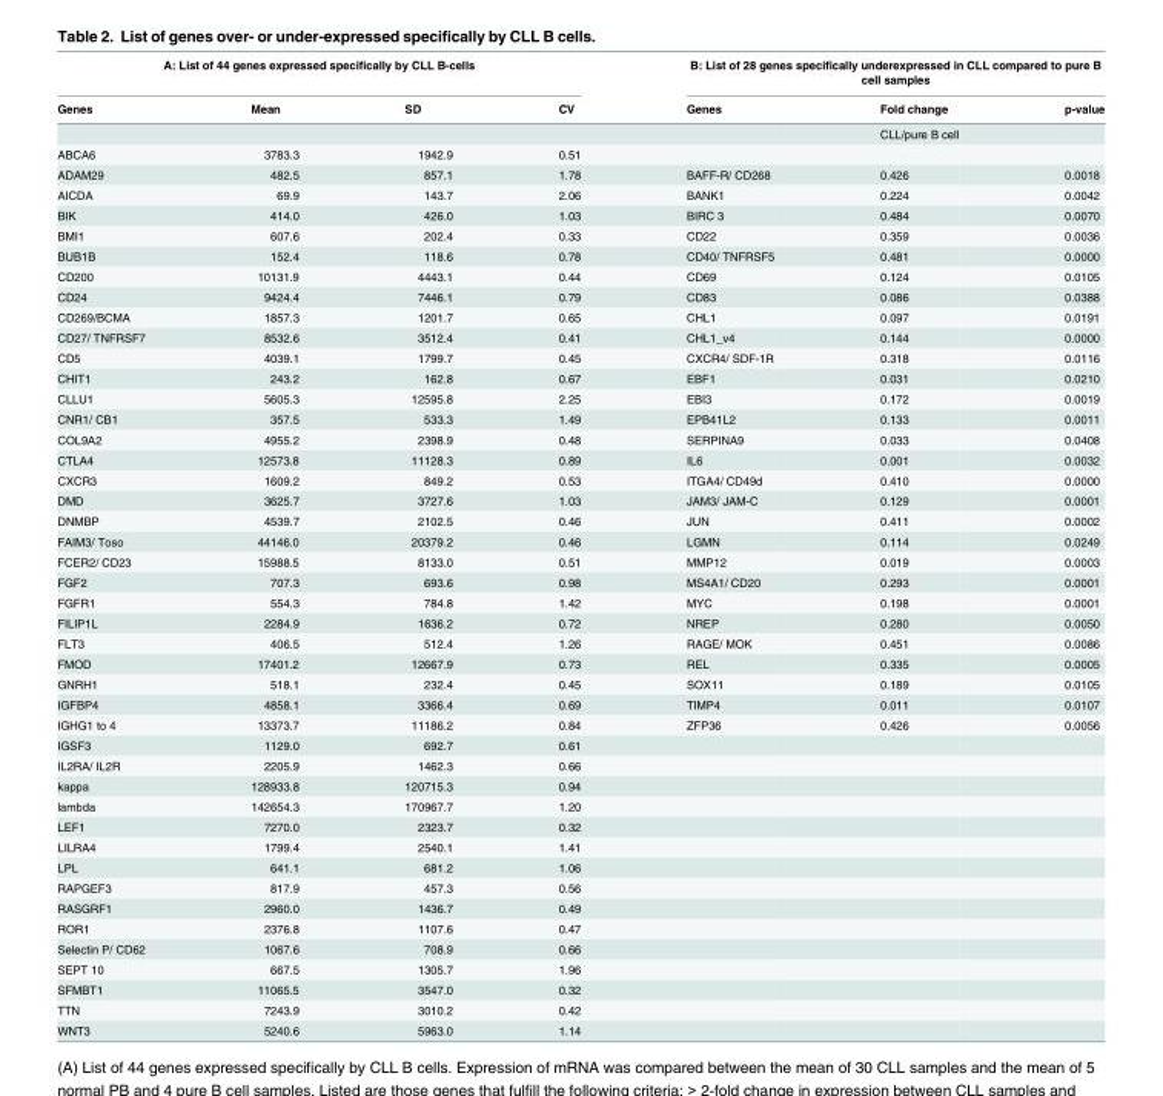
<table><thead><tr><td colspan="4">A: List of 44 genes expressed specifically by CLL B-cells</td><td colspan="3">B: List of 28 genes specifically underexpressed in CLL compared to pure B cell samples</td></tr><tr><td>Genes</td><td>Mean</td><td>SD</td><td>CV</td><td>Genes</td><td>Fold change</td><td>p-value</td></tr></thead><tbody><tr><td></td><td></td><td></td><td></td><td></td><td>CLL/pure B cell</td><td></td></tr><tr><td>ABCA6</td><td>3783.3</td><td>1942.9</td><td>0.51</td><td></td><td></td><td></td></tr><tr><td>ADAM29</td><td>482.5</td><td>857.1</td><td>1.78</td><td>BAFF-R/ CD268</td><td>0.426</td><td>0.0018</td></tr><tr><td>AICDA</td><td>69.9</td><td>143.7</td><td>2.06</td><td>BANK1</td><td>0.224</td><td>0.0042</td></tr><tr><td>BIK</td><td>414.0</td><td>426.0</td><td>1.03</td><td>BIRC 3</td><td>0.484</td><td>0.0070</td></tr><tr><td>BMI1</td><td>607.6</td><td>202.4</td><td>0.33</td><td>CD22</td><td>0.359</td><td>0.0036</td></tr><tr><td>BUB1B</td><td>152.4</td><td>118.6</td><td>0.78</td><td>CD40/ TNFRSF5</td><td>0.481</td><td>0.0000</td></tr><tr><td>CD200</td><td>10131.9</td><td>4443.1</td><td>0.44</td><td>CD69</td><td>0.124</td><td>0.0105</td></tr><tr><td>CD24</td><td>9424.4</td><td>7446.1</td><td>0.79</td><td>CD83</td><td>0.086</td><td>0.0388</td></tr><tr><td>CD269/BCMA</td><td>1857.3</td><td>1201.7</td><td>0.65</td><td>CHL1</td><td>0.097</td><td>0.0191</td></tr><tr><td>CD27/ TNFRSF7</td><td>8532.6</td><td>3512.4</td><td>0.41</td><td>CHL1_v4</td><td>0.144</td><td>0.0000</td></tr><tr><td>CD5</td><td>4039.1</td><td>1799.7</td><td>0.45</td><td>CXCR4/ SDF-1R</td><td>0.318</td><td>0.0116</td></tr><tr><td>CHIT1</td><td>243.2</td><td>162.8</td><td>0.67</td><td>EBF1</td><td>0.031</td><td>0.0210</td></tr><tr><td>CLLU1</td><td>5605.3</td><td>12595.8</td><td>2.25</td><td>EBI3</td><td>0.172</td><td>0.0019</td></tr><tr><td>CNR1/ CB1</td><td>357.5</td><td>533.3</td><td>1.49</td><td>EPB41L2</td><td>0.133</td><td>0.0011</td></tr><tr><td>COL9A2</td><td>4955.2</td><td>2398.9</td><td>0.48</td><td>SERPINA9</td><td>0.033</td><td>0.0408</td></tr><tr><td>CTLA4</td><td>12573.8</td><td>11128.3</td><td>0.89</td><td>IL6</td><td>0.001</td><td>0.0032</td></tr><tr><td>CXCR3</td><td>1609.2</td><td>849.2</td><td>0.53</td><td>ITGA4/ CD49d</td><td>0.410</td><td>0.0000</td></tr><tr><td>DMD</td><td>3625.7</td><td>3727.6</td><td>1.03</td><td>JAM3/ JAM-C</td><td>0.129</td><td>0.0001</td></tr><tr><td>DNMBP</td><td>4539.7</td><td>2102.5</td><td>0.46</td><td>JUN</td><td>0.411</td><td>0.0002</td></tr><tr><td>FAIM3/ Toso</td><td>44146.0</td><td>20379.2</td><td>0.46</td><td>LGMN</td><td>0.114</td><td>0.0249</td></tr><tr><td>FCER2/ CD23</td><td>15988.5</td><td>8133.0</td><td>0.51</td><td>MMP12</td><td>0.019</td><td>0.0003</td></tr><tr><td>FGF2</td><td>707.3</td><td>693.6</td><td>0.98</td><td>MS4A1/ CD20</td><td>0.293</td><td>0.0001</td></tr><tr><td>FGFR1</td><td>554.3</td><td>784.8</td><td>1.42</td><td>MYC</td><td>0.198</td><td>0.0001</td></tr><tr><td>FILIP1L</td><td>2284.9</td><td>1636.2</td><td>0.72</td><td>NREP</td><td>0.280</td><td>0.0050</td></tr><tr><td>FLT3</td><td>406.5</td><td>512.4</td><td>1.26</td><td>RAGE/ MOK</td><td>0.451</td><td>0.0086</td></tr><tr><td>FMOD</td><td>17401.2</td><td>12667.9</td><td>0.73</td><td>REL</td><td>0.335</td><td>0.0005</td></tr><tr><td>GNRH1</td><td>518.1</td><td>232.4</td><td>0.45</td><td>SOX11</td><td>0.189</td><td>0.0105</td></tr><tr><td>IGFBP4</td><td>4858.1</td><td>3366.4</td><td>0.69</td><td>TIMP4</td><td>0.011</td><td>0.0107</td></tr><tr><td>IGHG1 to 4</td><td>13373.7</td><td>11186.2</td><td>0.84</td><td>ZFP36</td><td>0.426</td><td>0.0056</td></tr><tr><td>IGSF3</td><td>1129.0</td><td>692.7</td><td>0.61</td><td></td><td></td><td></td></tr><tr><td>IL2RA/ IL2R</td><td>2205.9</td><td>1462.3</td><td>0.66</td><td></td><td></td><td></td></tr><tr><td>kappa</td><td>128933.8</td><td>120715.3</td><td>0.94</td><td></td><td></td><td></td></tr><tr><td>lambda</td><td>142654.3</td><td>170967.7</td><td>1.20</td><td></td><td></td><td></td></tr><tr><td>LEF1</td><td>7270.0</td><td>2323.7</td><td>0.32</td><td></td><td></td><td></td></tr><tr><td>LILRA4</td><td>1799.4</td><td>2540.1</td><td>1.41</td><td></td><td></td><td></td></tr><tr><td>LPL</td><td>641.1</td><td>681.2</td><td>1.06</td><td></td><td></td><td></td></tr><tr><td>RAPGEF3</td><td>817.9</td><td>457.3</td><td>0.56</td><td></td><td></td><td></td></tr><tr><td>RASGRF1</td><td>2960.0</td><td>1436.7</td><td>0.49</td><td></td><td></td><td></td></tr><tr><td>ROR1</td><td>2376.8</td><td>1107.6</td><td>0.47</td><td></td><td></td><td></td></tr><tr><td>Selectin P/ CD62</td><td>1067.6</td><td>708.9</td><td>0.66</td><td></td><td></td><td></td></tr><tr><td>SEPT 10</td><td>667.5</td><td>1305.7</td><td>1.96</td><td></td><td></td><td></td></tr><tr><td>SFMBT1</td><td>11065.5</td><td>3547.0</td><td>0.32</td><td></td><td></td><td></td></tr><tr><td>TTN</td><td>7243.9</td><td>3010.2</td><td>0.42</td><td></td><td></td><td></td></tr><tr><td>WNT3</td><td>5240.6</td><td>5963.0</td><td>1.14</td><td></td><td></td><td></td></tr></tbody></table>